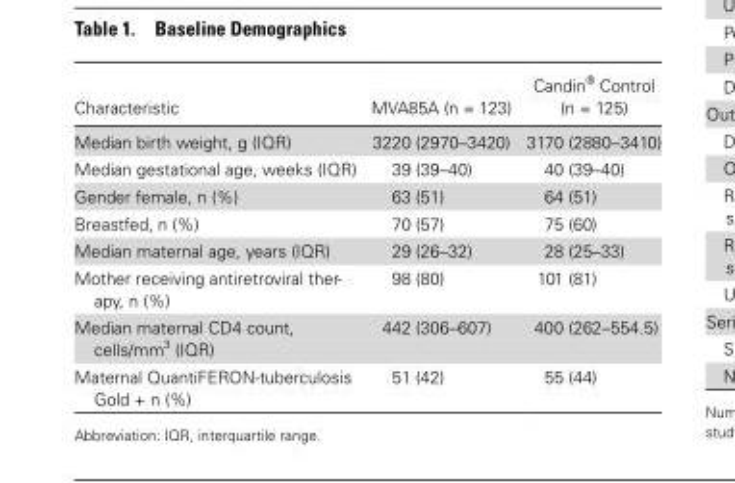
<table><thead><tr><td>Characteristic</td><td>MVA85A (n = 123)</td><td>Candin<sup>®</sup> Control (n = 125)</td></tr></thead><tbody><tr><td>Median birth weight, g (IQR)</td><td>3220 (2970–3420)</td><td>3170 (2880–3410)</td></tr><tr><td>Median gestational age, weeks (IQR)</td><td>39 (39–40)</td><td>40 (39–40)</td></tr><tr><td>Gender female, n (%)</td><td>63 (51)</td><td>64 (51)</td></tr><tr><td>Breastfed, n (%)</td><td>70 (57)</td><td>75 (60)</td></tr><tr><td>Median maternal age, years (IQR)</td><td>29 (26–32)</td><td>28 (25–33)</td></tr><tr><td>Mother receiving antiretroviral ther- apy, n (%)</td><td>98 (80)</td><td>101 (81)</td></tr><tr><td>Median maternal CD4 count, cells/mm<sup>3</sup> (IQR)</td><td>442 (306–607)</td><td>400 (262–554.5)</td></tr><tr><td>Maternal QuantiFERON-tuberculosis Gold + n (%)</td><td>51 (42)</td><td>55 (44)</td></tr></tbody></table>